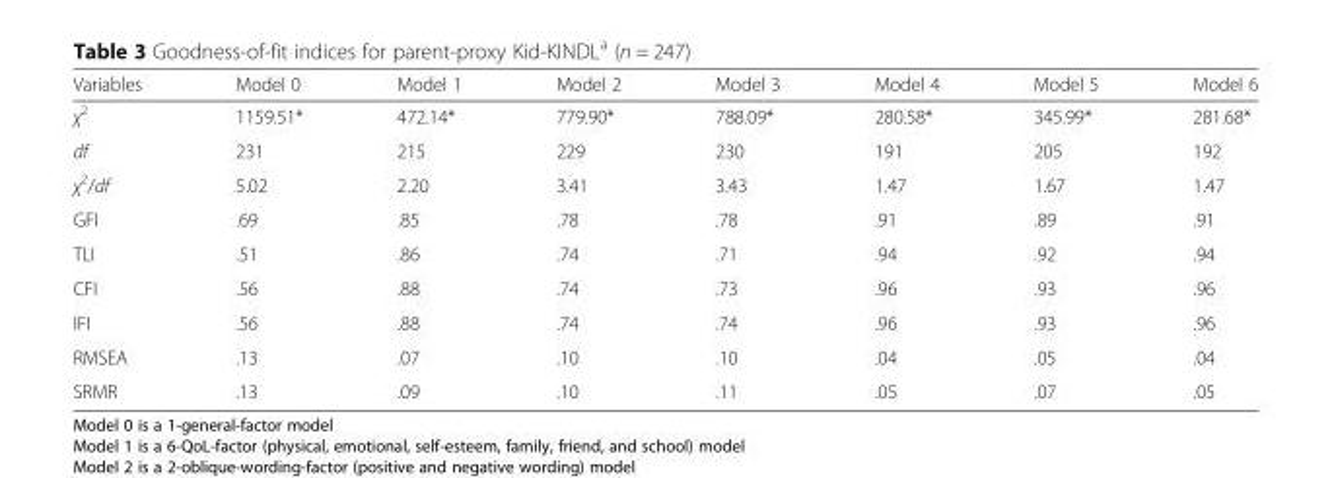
<table><thead><tr><td>Variables</td><td>Model 0</td><td>Model 1</td><td>Model 2</td><td>Model 3</td><td>Model 4</td><td>Model 5</td><td>Model 6</td></tr></thead><tbody><tr><td>χ<sup>2</sup></td><td>1159.51*</td><td>472.14*</td><td>779.90*</td><td>788.09*</td><td>280.58*</td><td>345.99*</td><td>281.68*</td></tr><tr><td>df</td><td>231</td><td>215</td><td>229</td><td>230</td><td>191</td><td>205</td><td>192</td></tr><tr><td>χ<sup>2</sup>/df</td><td>5.02</td><td>2.20</td><td>3.41</td><td>3.43</td><td>1.47</td><td>1.67</td><td>1.47</td></tr><tr><td>GFI</td><td>.69</td><td>.85</td><td>.78</td><td>.78</td><td>.91</td><td>.89</td><td>.91</td></tr><tr><td>TLI</td><td>.51</td><td>.86</td><td>.74</td><td>.71</td><td>.94</td><td>.92</td><td>.94</td></tr><tr><td>CFI</td><td>.56</td><td>.88</td><td>.74</td><td>.73</td><td>.96</td><td>.93</td><td>.96</td></tr><tr><td>IFI</td><td>.56</td><td>.88</td><td>.74</td><td>.74</td><td>.96</td><td>.93</td><td>.96</td></tr><tr><td>RMSEA</td><td>.13</td><td>.07</td><td>.10</td><td>.10</td><td>.04</td><td>.05</td><td>.04</td></tr><tr><td>SRMR</td><td>.13</td><td>.09</td><td>.10</td><td>.11</td><td>.05</td><td>.07</td><td>.05</td></tr></tbody></table>